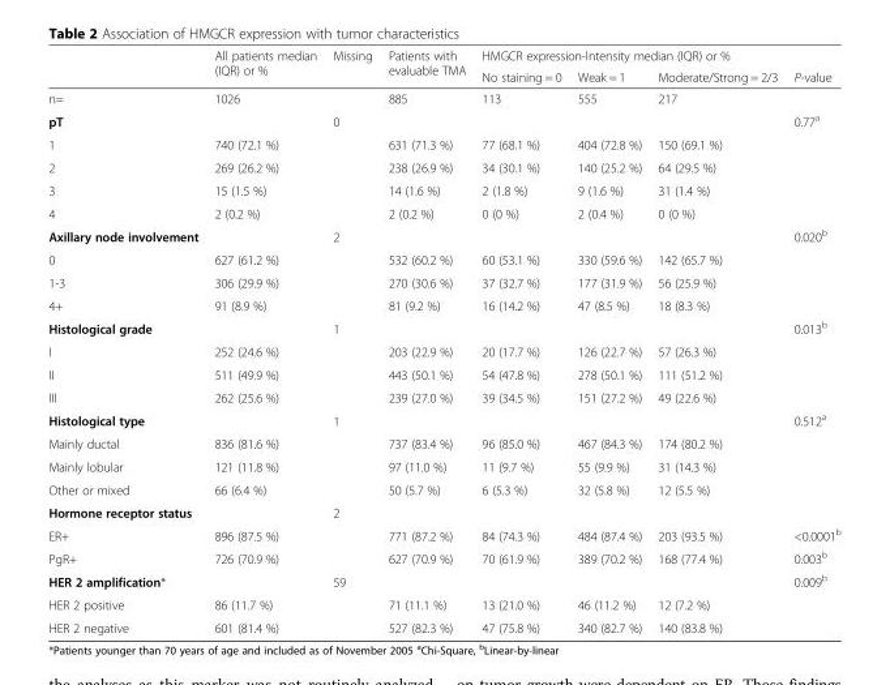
<table><thead><tr><td rowspan="2"></td><td rowspan="2">All patients median (IQR) or %</td><td rowspan="2">Missing</td><td rowspan="2">Patients with evaluable TMA</td><td colspan="3">HMGCR expression-Intensity median (IQR) or %</td><td rowspan="2">P-value</td></tr><tr><td>No staining = 0</td><td>Weak = 1</td><td>Moderate/Strong = 2/3</td></tr></thead><tbody><tr><td>n=</td><td>1026</td><td></td><td>885</td><td>113</td><td>555</td><td>217</td><td></td></tr><tr><td>pT</td><td></td><td>0</td><td></td><td></td><td></td><td></td><td>0.77<sup>a</sup></td></tr><tr><td>1</td><td>740 (72.1 %)</td><td></td><td>631 (71.3 %)</td><td>77 (68.1 %)</td><td>404 (72.8 %)</td><td>150 (69.1 %)</td><td></td></tr><tr><td>2</td><td>269 (26.2 %)</td><td></td><td>238 (26.9 %)</td><td>34 (30.1 %)</td><td>140 (25.2 %)</td><td>64 (29.5 %)</td><td></td></tr><tr><td>3</td><td>15 (1.5 %)</td><td></td><td>14 (1.6 %)</td><td>2 (1.8 %)</td><td>9 (1.6 %)</td><td>31 (1.4 %)</td><td></td></tr><tr><td>4</td><td>2 (0.2 %)</td><td></td><td>2 (0.2 %)</td><td>0 (0 %)</td><td>2 (0.4 %)</td><td>0 (0 %)</td><td></td></tr><tr><td>Axillary node involvement</td><td></td><td>2</td><td></td><td></td><td></td><td></td><td>0.020<sup>b</sup></td></tr><tr><td>0</td><td>627 (61.2 %)</td><td></td><td>532 (60.2 %)</td><td>60 (53.1 %)</td><td>330 (59.6 %)</td><td>142 (65.7 %)</td><td></td></tr><tr><td>1-3</td><td>306 (29.9 %)</td><td></td><td>270 (30.6 %)</td><td>37 (32.7 %)</td><td>177 (31.9 %)</td><td>56 (25.9 %)</td><td></td></tr><tr><td>4+</td><td>91 (8.9 %)</td><td></td><td>81 (9.2 %)</td><td>16 (14.2 %)</td><td>47 (8.5 %)</td><td>18 (8.3 %)</td><td></td></tr><tr><td>Histological grade</td><td></td><td>1</td><td></td><td></td><td></td><td></td><td>0.013<sup>b</sup></td></tr><tr><td>I</td><td>252 (24.6 %)</td><td></td><td>203 (22.9 %)</td><td>20 (17.7 %)</td><td>126 (22.7 %)</td><td>57 (26.3 %)</td><td></td></tr><tr><td>II</td><td>511 (49.9 %)</td><td></td><td>443 (50.1 %)</td><td>54 (47.8 %)</td><td>278 (50.1 %)</td><td>111 (51.2 %)</td><td></td></tr><tr><td>III</td><td>262 (25.6 %)</td><td></td><td>239 (27.0 %)</td><td>39 (34.5 %)</td><td>151 (27.2 %)</td><td>49 (22.6 %)</td><td></td></tr><tr><td>Histological type</td><td></td><td>1</td><td></td><td></td><td></td><td></td><td>0.512<sup>a</sup></td></tr><tr><td>Mainly ductal</td><td>836 (81.6 %)</td><td></td><td>737 (83.4 %)</td><td>96 (85.0 %)</td><td>467 (84.3 %)</td><td>174 (80.2 %)</td><td></td></tr><tr><td>Mainly lobular</td><td>121 (11.8 %)</td><td></td><td>97 (11.0 %)</td><td>11 (9.7 %)</td><td>55 (9.9 %)</td><td>31 (14.3 %)</td><td></td></tr><tr><td>Other or mixed</td><td>66 (6.4 %)</td><td></td><td>50 (5.7 %)</td><td>6 (5.3 %)</td><td>32 (5.8 %)</td><td>12 (5.5 %)</td><td></td></tr><tr><td>Hormone receptor status</td><td></td><td>2</td><td></td><td></td><td></td><td></td><td></td></tr><tr><td>ER+</td><td>896 (87.5 %)</td><td></td><td>771 (87.2 %)</td><td>84 (74.3 %)</td><td>484 (87.4 %)</td><td>203 (93.5 %)</td><td>&lt;0.0001<sup>b</sup></td></tr><tr><td>PgR+</td><td>726 (70.9 %)</td><td></td><td>627 (70.9 %)</td><td>70 (61.9 %)</td><td>389 (70.2 %)</td><td>168 (77.4 %)</td><td>0.003<sup>b</sup></td></tr><tr><td>HER 2 amplification*</td><td></td><td>59</td><td></td><td></td><td></td><td></td><td>0.009<sup>b</sup></td></tr><tr><td>HER 2 positive</td><td>86 (11.7 %)</td><td></td><td>71 (11.1 %)</td><td>13 (21.0 %)</td><td>46 (11.2 %)</td><td>12 (7.2 %)</td><td></td></tr><tr><td>HER 2 negative</td><td>601 (81.4 %)</td><td></td><td>527 (82.3 %)</td><td>47 (75.8 %)</td><td>340 (82.7 %)</td><td>140 (83.8 %)</td><td></td></tr></tbody></table>